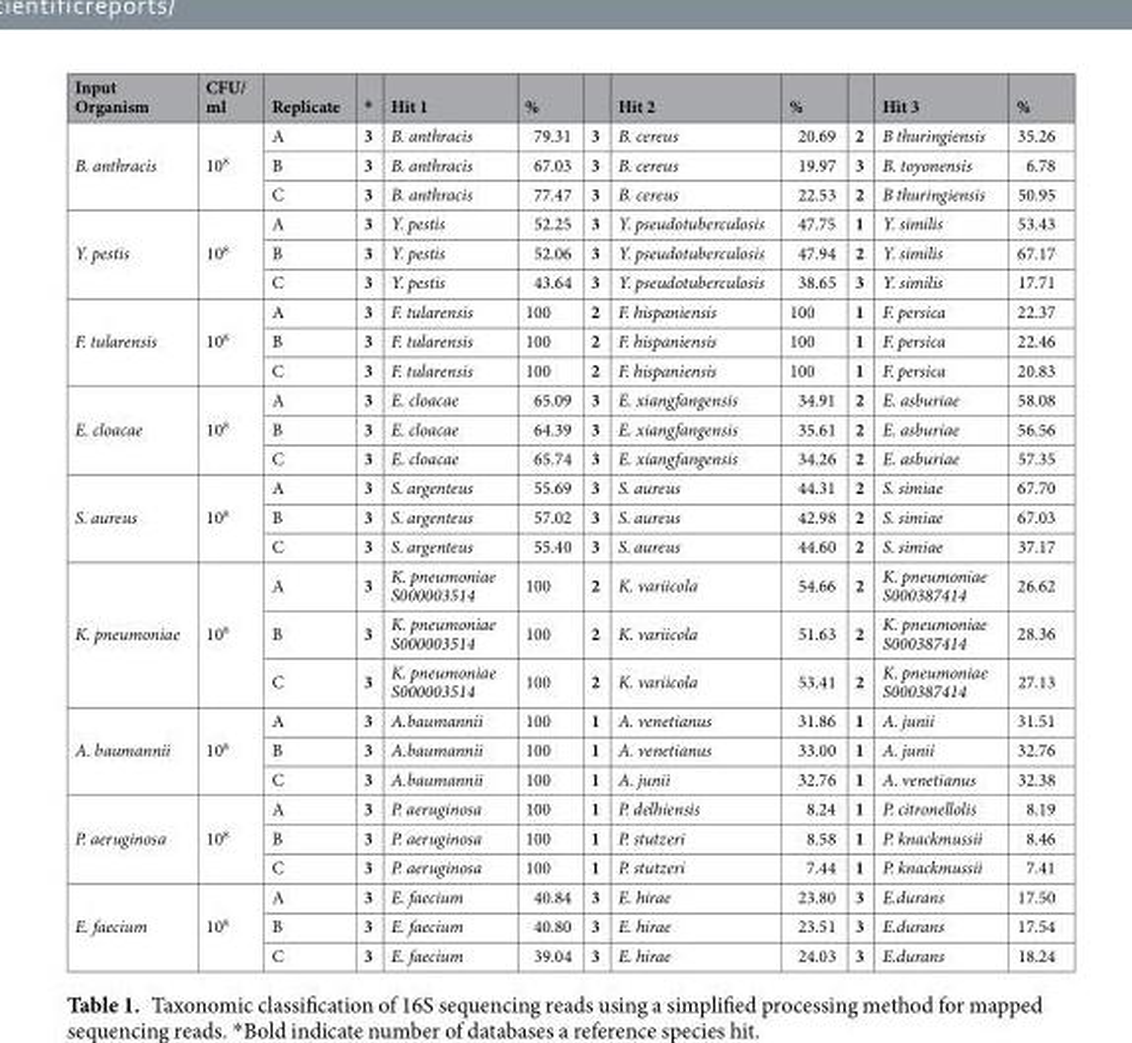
<table><thead><tr><td>Input Organism</td><td>CFU/ ml</td><td>Replicate</td><td>*</td><td>Hit 1</td><td>%</td><td></td><td>Hit 2</td><td>%</td><td></td><td>Hit 3</td><td>%</td></tr></thead><tbody><tr><td rowspan="3">B. anthracis</td><td rowspan="3">10<sup>8</sup></td><td>A</td><td>3</td><td>B. anthracis</td><td>79.31</td><td>3</td><td>B. cereus</td><td>20.69</td><td>2</td><td>B thuringiensis</td><td>35.26</td></tr><tr><td>B</td><td>3</td><td>B. anthracis</td><td>67.03</td><td>3</td><td>B. cereus</td><td>19.97</td><td>3</td><td>B. toyonensis</td><td>6.78</td></tr><tr><td>C</td><td>3</td><td>B. anthracis</td><td>77.47</td><td>3</td><td>B. cereus</td><td>22.53</td><td>2</td><td>B thuringiensis</td><td>50.95</td></tr><tr><td rowspan="3">Y. pestis</td><td rowspan="3">10<sup>8</sup></td><td>A</td><td>3</td><td>Y. pestis</td><td>52.25</td><td>3</td><td>Y. pseudotuberculosis</td><td>47.75</td><td>1</td><td>Y. similis</td><td>53.43</td></tr><tr><td>B</td><td>3</td><td>Y. pestis</td><td>52.06</td><td>3</td><td>Y. pseudotuberculosis</td><td>47.94</td><td>2</td><td>Y. similis</td><td>67.17</td></tr><tr><td>C</td><td>3</td><td>Y. pestis</td><td>43.64</td><td>3</td><td>Y. pseudotuberculosis</td><td>38.65</td><td>3</td><td>Y. similis</td><td>17.71</td></tr><tr><td rowspan="3">F. tularensis</td><td rowspan="3">10<sup>8</sup></td><td>A</td><td>3</td><td>F. tularensis</td><td>100</td><td>2</td><td>F. hispaniensis</td><td>100</td><td>1</td><td>F. persica</td><td>22.37</td></tr><tr><td>B</td><td>3</td><td>F. tularensis</td><td>100</td><td>2</td><td>F. hispaniensis</td><td>100</td><td>1</td><td>F. persica</td><td>22.46</td></tr><tr><td>C</td><td>3</td><td>F. tularensis</td><td>100</td><td>2</td><td>F. hispaniensis</td><td>100</td><td>1</td><td>F. persica</td><td>20.83</td></tr><tr><td rowspan="3">E. cloacae</td><td rowspan="3">10<sup>8</sup></td><td>A</td><td>3</td><td>E. cloacae</td><td>65.09</td><td>3</td><td>E. xiangfangensis</td><td>34.91</td><td>2</td><td>E. asburiae</td><td>58.08</td></tr><tr><td>B</td><td>3</td><td>E. cloacae</td><td>64.39</td><td>3</td><td>E. xiangfangensis</td><td>35.61</td><td>2</td><td>E. asburiae</td><td>56.56</td></tr><tr><td>C</td><td>3</td><td>E. cloacae</td><td>65.74</td><td>3</td><td>E. xiangfangensis</td><td>34.26</td><td>2</td><td>E. asburiae</td><td>57.35</td></tr><tr><td rowspan="3">S. aureus</td><td rowspan="3">10<sup>8</sup></td><td>A</td><td>3</td><td>S. argenteus</td><td>55.69</td><td>3</td><td>S. aureus</td><td>44.31</td><td>2</td><td>S. simiae</td><td>67.70</td></tr><tr><td>B</td><td>3</td><td>S. argenteus</td><td>57.02</td><td>3</td><td>S. aureus</td><td>42.98</td><td>2</td><td>S. simiae</td><td>67.03</td></tr><tr><td>C</td><td>3</td><td>S. argenteus</td><td>55.40</td><td>3</td><td>S. aureus</td><td>44.60</td><td>2</td><td>S. simiae</td><td>37.17</td></tr><tr><td rowspan="3">K. pneumoniae</td><td rowspan="3">10<sup>8</sup></td><td>A</td><td>3</td><td>K. pneumoniae S000003514</td><td>100</td><td>2</td><td>K. variicola</td><td>54.66</td><td>2</td><td>K. pneumoniae S000387414</td><td>26.62</td></tr><tr><td>B</td><td>3</td><td>K. pneumoniae S000003514</td><td>100</td><td>2</td><td>K. variicola</td><td>51.63</td><td>2</td><td>K. pneumoniae S000387414</td><td>28.36</td></tr><tr><td>C</td><td>3</td><td>K. pneumoniae S000003514</td><td>100</td><td>2</td><td>K. variicola</td><td>53.41</td><td>2</td><td>K. pneumoniae S000387414</td><td>27.13</td></tr><tr><td rowspan="3">A. baumannii</td><td rowspan="3">10<sup>8</sup></td><td>A</td><td>3</td><td>A.baumannii</td><td>100</td><td>1</td><td>A. venetianus</td><td>31.86</td><td>1</td><td>A. junii</td><td>31.51</td></tr><tr><td>B</td><td>3</td><td>A.baumannii</td><td>100</td><td>1</td><td>A. venetianus</td><td>33.00</td><td>1</td><td>A. junii</td><td>32.76</td></tr><tr><td>C</td><td>3</td><td>A.baumannii</td><td>100</td><td>1</td><td>A. junii</td><td>32.76</td><td>1</td><td>A. venetianus</td><td>32.38</td></tr><tr><td rowspan="3">P. aeruginosa</td><td rowspan="3">10<sup>8</sup></td><td>A</td><td>3</td><td>P. aeruginosa</td><td>100</td><td>1</td><td>P. delhiensis</td><td>8.24</td><td>1</td><td>P. citronellolis</td><td>8.19</td></tr><tr><td>B</td><td>3</td><td>P. aeruginosa</td><td>100</td><td>1</td><td>P. stutzeri</td><td>8.58</td><td>1</td><td>P. knackmussii</td><td>8.46</td></tr><tr><td>C</td><td>3</td><td>P. aeruginosa</td><td>100</td><td>1</td><td>P. stutzeri</td><td>7.44</td><td>1</td><td>P. knackmussii</td><td>7.41</td></tr><tr><td rowspan="3">E. faecium</td><td rowspan="3">10<sup>8</sup></td><td>A</td><td>3</td><td>E. faecium</td><td>40.84</td><td>3</td><td>E. hirae</td><td>23.80</td><td>3</td><td>E.durans</td><td>17.50</td></tr><tr><td>B</td><td>3</td><td>E. faecium</td><td>40.80</td><td>3</td><td>E. hirae</td><td>23.51</td><td>3</td><td>E.durans</td><td>17.54</td></tr><tr><td>C</td><td>3</td><td>E. faecium</td><td>39.04</td><td>3</td><td>E. hirae</td><td>24.03</td><td>3</td><td>E.durans</td><td>18.24</td></tr></tbody></table>